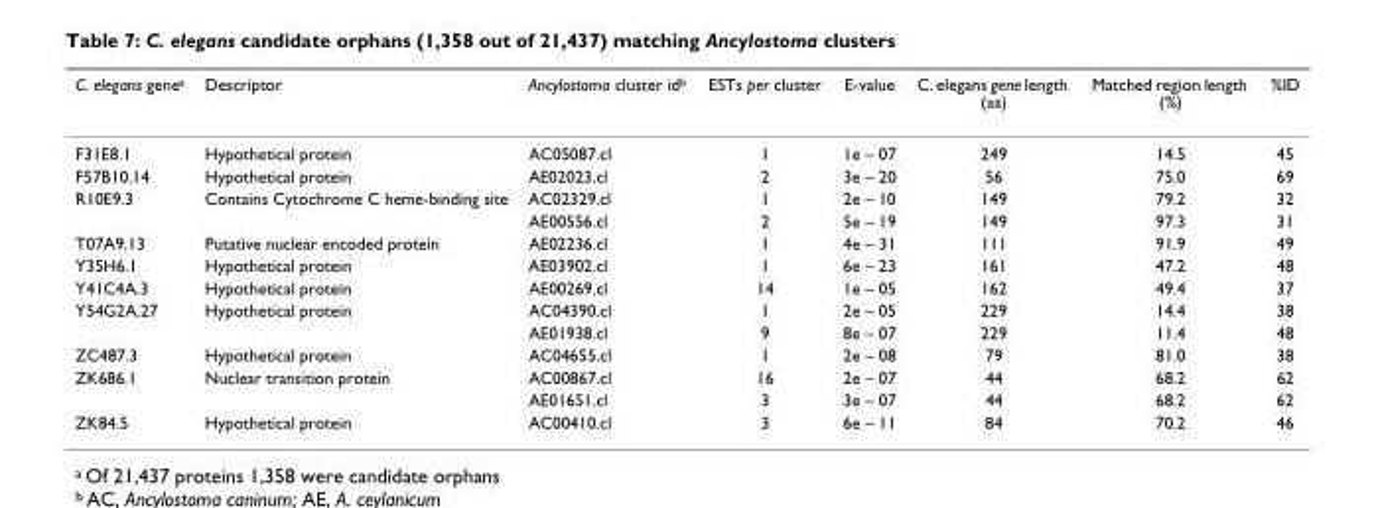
<table><thead><tr><td>C. elegans gene<sup>a</sup></td><td>Descriptor</td><td>Ancylostoma cluster id<sup>b</sup></td><td>ESTs per cluster</td><td>E-value</td><td>C. elegans gene length (aa)</td><td>Matched region length (%)</td><td>%ID</td></tr></thead><tbody><tr><td>F31E8.1</td><td>Hypothetical protein</td><td>AC05087.cl</td><td>1</td><td>1e – 07</td><td>249</td><td>14.5</td><td>45</td></tr><tr><td>F57B10.14</td><td>Hypothetical protein</td><td>AE02023.cl</td><td>2</td><td>3e – 20</td><td>56</td><td>75.0</td><td>69</td></tr><tr><td rowspan="2">R10E9.3</td><td>Contains Cytochrome C heme-binding site</td><td>AC02329.cl</td><td>1</td><td>2e – 10</td><td>149</td><td>79.2</td><td>32</td></tr><tr><td></td><td>AE00556.cl</td><td>2</td><td>5e – 19</td><td>149</td><td>97.3</td><td>31</td></tr><tr><td>T07A9.13</td><td>Putative nuclear encoded protein</td><td>AE02236.cl</td><td>1</td><td>4e – 31</td><td>111</td><td>91.9</td><td>49</td></tr><tr><td>Y35H6.1</td><td>Hypothetical protein</td><td>AE03902.cl</td><td>1</td><td>6e – 23</td><td>161</td><td>47.2</td><td>48</td></tr><tr><td>Y41C4A.3</td><td>Hypothetical protein</td><td>AE00269.cl</td><td>14</td><td>1e – 05</td><td>162</td><td>49.4</td><td>37</td></tr><tr><td rowspan="2">Y54G2A.27</td><td>Hypothetical protein</td><td>AC04390.cl</td><td>1</td><td>2e – 05</td><td>229</td><td>14.4</td><td>38</td></tr><tr><td></td><td>AE01938.cl</td><td>9</td><td>8e – 07</td><td>229</td><td>11.4</td><td>48</td></tr><tr><td>ZC487.3</td><td>Hypothetical protein</td><td>AC04655.cl</td><td>1</td><td>2e – 08</td><td>79</td><td>81.0</td><td>38</td></tr><tr><td rowspan="2">ZK686.1</td><td>Nuclear transition protein</td><td>AC00867.cl</td><td>16</td><td>2e – 07</td><td>44</td><td>68.2</td><td>62</td></tr><tr><td></td><td>AE01651.cl</td><td>3</td><td>3e – 07</td><td>44</td><td>68.2</td><td>62</td></tr><tr><td>ZK84.5</td><td>Hypothetical protein</td><td>AC00410.cl</td><td>3</td><td>6e – 11</td><td>84</td><td>70.2</td><td>46</td></tr></tbody></table>